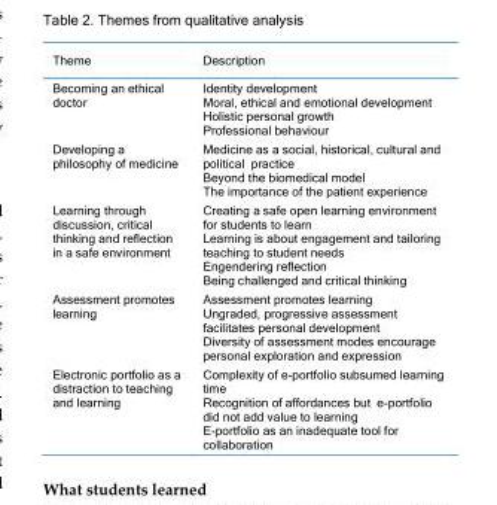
<table><thead><tr><td>Theme</td><td>Description</td></tr></thead><tbody><tr><td rowspan="4">Becoming an ethical doctor</td><td>Identity development</td></tr><tr><td>Moral, ethical and emotional development</td></tr><tr><td>Holistic personal growth</td></tr><tr><td>Professional behaviour</td></tr><tr><td rowspan="3">Developing a philosophy of medicine</td><td>Medicine as a social, historical, cultural and political practice</td></tr><tr><td>Beyond the biomedical model</td></tr><tr><td>The importance of the patient experience</td></tr><tr><td rowspan="4">Learning through discussion, critical thinking and reflection in a safe environment</td><td>Creating a safe open learning environment for students to learn</td></tr><tr><td>Learning is about engagement and tailoring teaching to student needs</td></tr><tr><td>Engendering reflection</td></tr><tr><td>Being challenged and critical thinking</td></tr><tr><td rowspan="3">Assessment promotes learning</td><td>Assessment promotes learning</td></tr><tr><td>Ungraded, progressive assessment facilitates personal development</td></tr><tr><td>Diversity of assessment modes encourage personal exploration and expression</td></tr><tr><td rowspan="3">Electronic portfolio as a distraction to teaching and learning</td><td>Complexity of e-portfolio subsumed learning time</td></tr><tr><td>Recognition of affordances but e-portfolio did not add value to learning</td></tr><tr><td>E-portfolio as an inadequate tool for collaboration</td></tr></tbody></table>